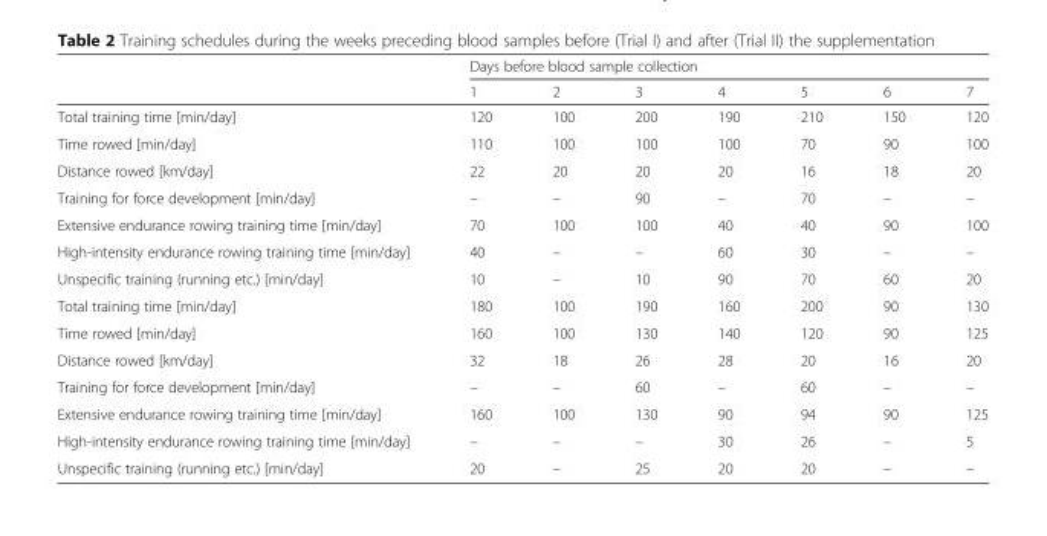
<table><thead><tr><td rowspan="2"></td><td colspan="7">Days before blood sample collection</td></tr><tr><td>1</td><td>2</td><td>3</td><td>4</td><td>5</td><td>6</td><td>7</td></tr></thead><tbody><tr><td>Total training time [min/day]</td><td>120</td><td>100</td><td>200</td><td>190</td><td>210</td><td>150</td><td>120</td></tr><tr><td>Time rowed [min/day]</td><td>110</td><td>100</td><td>100</td><td>100</td><td>70</td><td>90</td><td>100</td></tr><tr><td>Distance rowed [km/day]</td><td>22</td><td>20</td><td>20</td><td>20</td><td>16</td><td>18</td><td>20</td></tr><tr><td>Training for force development [min/day]</td><td>–</td><td>–</td><td>90</td><td>–</td><td>70</td><td>–</td><td>–</td></tr><tr><td>Extensive endurance rowing training time [min/day]</td><td>70</td><td>100</td><td>100</td><td>40</td><td>40</td><td>90</td><td>100</td></tr><tr><td>High-intensity endurance rowing training time [min/day]</td><td>40</td><td>–</td><td>–</td><td>60</td><td>30</td><td>–</td><td>–</td></tr><tr><td>Unspecific training (running etc.) [min/day]</td><td>10</td><td>–</td><td>10</td><td>90</td><td>70</td><td>60</td><td>20</td></tr><tr><td>Total training time [min/day]</td><td>180</td><td>100</td><td>190</td><td>160</td><td>200</td><td>90</td><td>130</td></tr><tr><td>Time rowed [min/day]</td><td>160</td><td>100</td><td>130</td><td>140</td><td>120</td><td>90</td><td>125</td></tr><tr><td>Distance rowed [km/day]</td><td>32</td><td>18</td><td>26</td><td>28</td><td>20</td><td>16</td><td>20</td></tr><tr><td>Training for force development [min/day]</td><td>–</td><td>–</td><td>60</td><td>–</td><td>60</td><td>–</td><td>–</td></tr><tr><td>Extensive endurance rowing training time [min/day]</td><td>160</td><td>100</td><td>130</td><td>90</td><td>94</td><td>90</td><td>125</td></tr><tr><td>High-intensity endurance rowing training time [min/day]</td><td>–</td><td>–</td><td>–</td><td>30</td><td>26</td><td>–</td><td>5</td></tr><tr><td>Unspecific training (running etc.) [min/day]</td><td>20</td><td>–</td><td>25</td><td>20</td><td>20</td><td>–</td><td>–</td></tr></tbody></table>